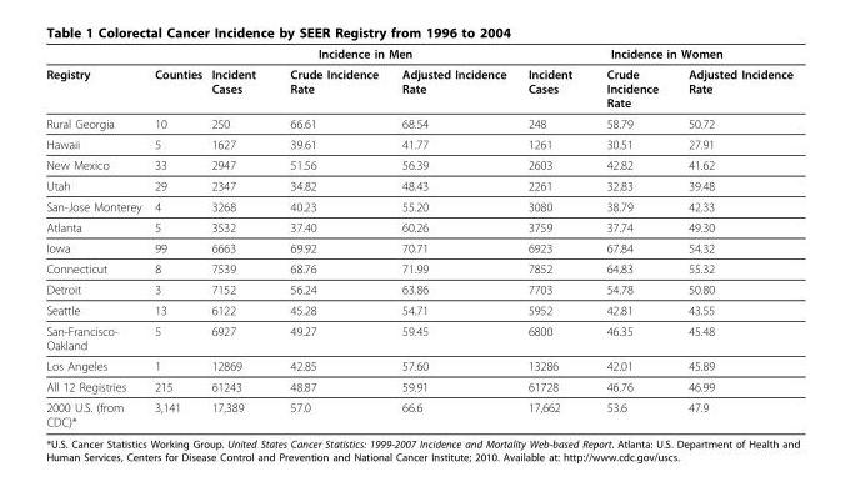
<table><thead><tr><td rowspan="2">Registry</td><td rowspan="2">Counties</td><td colspan="3">Incidence in Men</td><td colspan="3">Incidence in Women</td></tr><tr><td>Incident Cases</td><td>Crude Incidence Rate</td><td>Adjusted Incidence Rate</td><td>Incident Cases</td><td>Crude Incidence Rate</td><td>Adjusted Incidence Rate</td></tr></thead><tbody><tr><td>Rural Georgia</td><td>10</td><td>250</td><td>66.61</td><td>68.54</td><td>248</td><td>58.79</td><td>50.72</td></tr><tr><td>Hawaii</td><td>5</td><td>1627</td><td>39.61</td><td>41.77</td><td>1261</td><td>30.51</td><td>27.91</td></tr><tr><td>New Mexico</td><td>33</td><td>2947</td><td>51.56</td><td>56.39</td><td>2603</td><td>42.82</td><td>41.62</td></tr><tr><td>Utah</td><td>29</td><td>2347</td><td>34.82</td><td>48.43</td><td>2261</td><td>32.83</td><td>39.48</td></tr><tr><td>San-Jose Monterey</td><td>4</td><td>3268</td><td>40.23</td><td>55.20</td><td>3080</td><td>38.79</td><td>42.33</td></tr><tr><td>Atlanta</td><td>5</td><td>3532</td><td>37.40</td><td>60.26</td><td>3759</td><td>37.74</td><td>49.30</td></tr><tr><td>Iowa</td><td>99</td><td>6663</td><td>69.92</td><td>70.71</td><td>6923</td><td>67.84</td><td>54.32</td></tr><tr><td>Connecticut</td><td>8</td><td>7539</td><td>68.76</td><td>71.99</td><td>7852</td><td>64.83</td><td>55.32</td></tr><tr><td>Detroit</td><td>3</td><td>7152</td><td>56.24</td><td>63.86</td><td>7703</td><td>54.78</td><td>50.80</td></tr><tr><td>Seattle</td><td>13</td><td>6122</td><td>45.28</td><td>54.71</td><td>5952</td><td>42.81</td><td>43.55</td></tr><tr><td>San-Francisco- Oakland</td><td>5</td><td>6927</td><td>49.27</td><td>59.45</td><td>6800</td><td>46.35</td><td>45.48</td></tr><tr><td>Los Angeles</td><td>1</td><td>12869</td><td>42.85</td><td>57.60</td><td>13286</td><td>42.01</td><td>45.89</td></tr><tr><td>All 12 Registries</td><td>215</td><td>61243</td><td>48.87</td><td>59.91</td><td>61728</td><td>46.76</td><td>46.99</td></tr><tr><td>2000 U.S. (from CDC)*</td><td>3,141</td><td>17,389</td><td>57.0</td><td>66.6</td><td>17,662</td><td>53.6</td><td>47.9</td></tr></tbody></table>